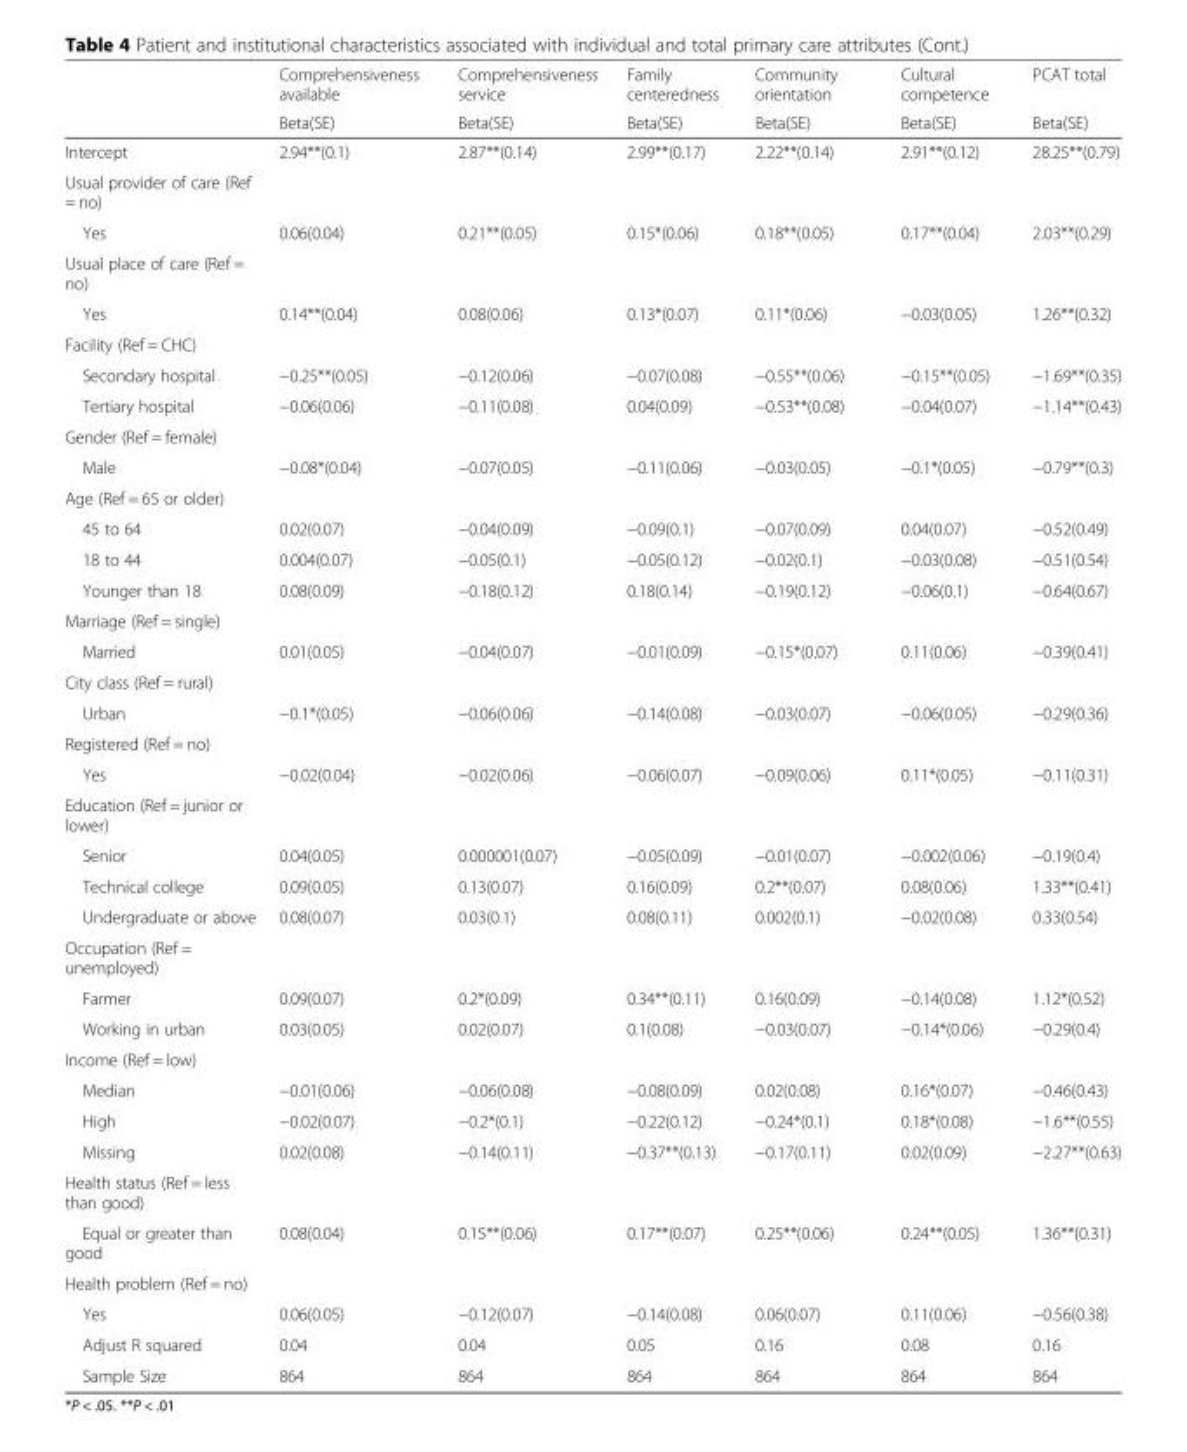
<table><thead><tr><td rowspan="2"></td><td rowspan="2">Comprehensiveness available Beta(SE)</td><td rowspan="2">Comprehensiveness service Beta(SE)</td><td rowspan="2">Family centeredness Beta(SE)</td><td rowspan="2">Community orientation Beta(SE)</td><td rowspan="2">Cultural competence Beta(SE)</td><td rowspan="2">PCAT total Beta(SE)</td></tr><tr></tr></thead><tbody><tr><td>Intercept</td><td>2.94**(0.1)</td><td>2.87**(0.14)</td><td>2.99**(0.17)</td><td>2.22**(0.14)</td><td>2.91**(0.12)</td><td>28.25**(0.79)</td></tr><tr><td colspan="7">Usual provider of care (Ref = no)</td></tr><tr><td>Yes</td><td>0.06(0.04)</td><td>0.21**(0.05)</td><td>0.15*(0.06)</td><td>0.18**(0.05)</td><td>0.17**(0.04)</td><td>2.03**(0.29)</td></tr><tr><td colspan="7">Usual place of care (Ref = no)</td></tr><tr><td>Yes</td><td>0.14**(0.04)</td><td>0.08(0.06)</td><td>0.13*(0.07)</td><td>0.11*(0.06)</td><td>−0.03(0.05)</td><td>1.26**(0.32)</td></tr><tr><td colspan="7">Facility (Ref = CHC)</td></tr><tr><td>Secondary hospital</td><td>−0.25**(0.05)</td><td>−0.12(0.06)</td><td>−0.07(0.08)</td><td>−0.55**(0.06)</td><td>−0.15**(0.05)</td><td>−1.69**(0.35)</td></tr><tr><td>Tertiary hospital</td><td>−0.06(0.06)</td><td>−0.11(0.08)</td><td>0.04(0.09)</td><td>−0.53**(0.08)</td><td>−0.04(0.07)</td><td>−1.14**(0.43)</td></tr><tr><td colspan="7">Gender (Ref = female)</td></tr><tr><td>Male</td><td>−0.08*(0.04)</td><td>−0.07(0.05)</td><td>−0.11(0.06)</td><td>−0.03(0.05)</td><td>−0.1*(0.05)</td><td>−0.79**(0.3)</td></tr><tr><td colspan="7">Age (Ref = 65 or older)</td></tr><tr><td>45 to 64</td><td>0.02(0.07)</td><td>−0.04(0.09)</td><td>−0.09(0.1)</td><td>−0.07(0.09)</td><td>0.04(0.07)</td><td>−0.52(0.49)</td></tr><tr><td>18 to 44</td><td>0.004(0.07)</td><td>−0.05(0.1)</td><td>−0.05(0.12)</td><td>−0.02(0.1)</td><td>−0.03(0.08)</td><td>−0.51(0.54)</td></tr><tr><td>Younger than 18</td><td>0.08(0.09)</td><td>−0.18(0.12)</td><td>0.18(0.14)</td><td>−0.19(0.12)</td><td>−0.06(0.1)</td><td>−0.64(0.67)</td></tr><tr><td colspan="7">Marriage (Ref = single)</td></tr><tr><td>Married</td><td>0.01(0.05)</td><td>−0.04(0.07)</td><td>−0.01(0.09)</td><td>−0.15*(0.07)</td><td>0.11(0.06)</td><td>−0.39(0.41)</td></tr><tr><td colspan="7">City class (Ref = rural)</td></tr><tr><td>Urban</td><td>−0.1*(0.05)</td><td>−0.06(0.06)</td><td>−0.14(0.08)</td><td>−0.03(0.07)</td><td>−0.06(0.05)</td><td>−0.29(0.36)</td></tr><tr><td colspan="7">Registered (Ref = no)</td></tr><tr><td>Yes</td><td>−0.02(0.04)</td><td>−0.02(0.06)</td><td>−0.06(0.07)</td><td>−0.09(0.06)</td><td>0.11*(0.05)</td><td>−0.11(0.31)</td></tr><tr><td colspan="7">Education (Ref = junior or lower)</td></tr><tr><td>Senior</td><td>0.04(0.05)</td><td>0.000001(0.07)</td><td>−0.05(0.09)</td><td>−0.01(0.07)</td><td>−0.002(0.06)</td><td>−0.19(0.4)</td></tr><tr><td>Technical college</td><td>0.09(0.05)</td><td>0.13(0.07)</td><td>0.16(0.09)</td><td>0.2**(0.07)</td><td>0.08(0.06)</td><td>1.33**(0.41)</td></tr><tr><td>Undergraduate or above</td><td>0.08(0.07)</td><td>0.03(0.1)</td><td>0.08(0.11)</td><td>0.002(0.1)</td><td>−0.02(0.08)</td><td>0.33(0.54)</td></tr><tr><td colspan="7">Occupation (Ref = unemployed)</td></tr><tr><td>Farmer</td><td>0.09(0.07)</td><td>0.2*(0.09)</td><td>0.34**(0.11)</td><td>0.16(0.09)</td><td>−0.14(0.08)</td><td>1.12*(0.52)</td></tr><tr><td>Working in urban</td><td>0.03(0.05)</td><td>0.02(0.07)</td><td>0.1(0.08)</td><td>−0.03(0.07)</td><td>−0.14*(0.06)</td><td>−0.29(0.4)</td></tr><tr><td colspan="7">Income (Ref = low)</td></tr><tr><td>Median</td><td>−0.01(0.06)</td><td>−0.06(0.08)</td><td>−0.08(0.09)</td><td>0.02(0.08)</td><td>0.16*(0.07)</td><td>−0.46(0.43)</td></tr><tr><td>High</td><td>−0.02(0.07)</td><td>−0.2*(0.1)</td><td>−0.22(0.12)</td><td>−0.24*(0.1)</td><td>0.18*(0.08)</td><td>−1.6**(0.55)</td></tr><tr><td>Missing</td><td>0.02(0.08)</td><td>−0.14(0.11)</td><td>−0.37**(0.13)</td><td>−0.17(0.11)</td><td>0.02(0.09)</td><td>−2.27**(0.63)</td></tr><tr><td colspan="7">Health status (Ref = less than good)</td></tr><tr><td>Equal or greater than good</td><td>0.08(0.04)</td><td>0.15**(0.06)</td><td>0.17**(0.07)</td><td>0.25**(0.06)</td><td>0.24**(0.05)</td><td>1.36**(0.31)</td></tr><tr><td colspan="7">Health problem (Ref = no)</td></tr><tr><td>Yes</td><td>0.06(0.05)</td><td>−0.12(0.07)</td><td>−0.14(0.08)</td><td>0.06(0.07)</td><td>0.11(0.06)</td><td>−0.56(0.38)</td></tr><tr><td>Adjust R squared</td><td>0.04</td><td>0.04</td><td>0.05</td><td>0.16</td><td>0.08</td><td>0.16</td></tr><tr><td>Sample Size</td><td>864</td><td>864</td><td>864</td><td>864</td><td>864</td><td>864</td></tr></tbody></table>